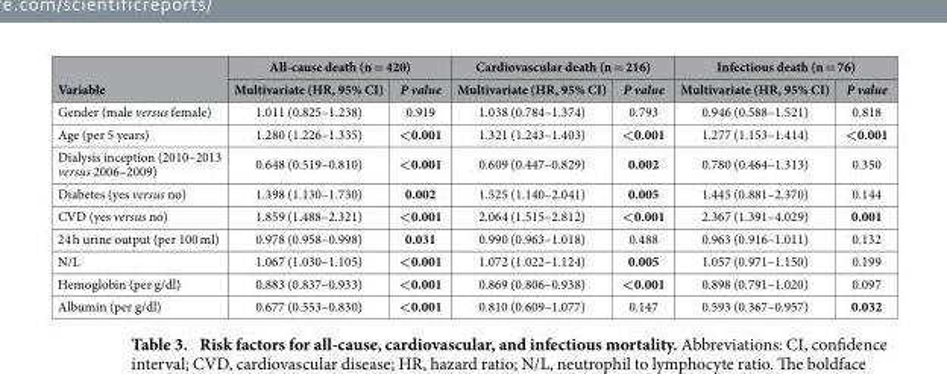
<table><thead><tr><td rowspan="2">Variable</td><td colspan="2">All-cause death (n = 420)</td><td colspan="2">Cardiovascular death (n = 216)</td><td colspan="2">Infectious death (n = 76)</td></tr><tr><td>Multivariate (HR, 95% CI)</td><td>P value</td><td>Multivariate (HR, 95% CI)</td><td>P value</td><td>Multivariate (HR, 95% CI)</td><td>P value</td></tr></thead><tbody><tr><td>Gender (male versus female)</td><td>1.011 (0.825–1.238)</td><td>0.919</td><td>1.038 (0.784–1.374)</td><td>0.793</td><td>0.946 (0.588–1.521)</td><td>0.818</td></tr><tr><td>Age (per 5 years)</td><td>1.280 (1.226–1.335)</td><td>&lt;0.001</td><td>1.321 (1.243–1.403)</td><td>&lt;0.001</td><td>1.277 (1.153–1.414)</td><td>&lt;0.001</td></tr><tr><td>Dialysis inception (2010–2013 versus 2006–2009)</td><td>0.648 (0.519–0.810)</td><td>&lt;0.001</td><td>0.609 (0.447–0.829)</td><td>0.002</td><td>0.780 (0.464–1.313)</td><td>0.350</td></tr><tr><td>Diabetes (yes versus no)</td><td>1.398 (1.130–1.730)</td><td>0.002</td><td>1.525 (1.140–2.041)</td><td>0.005</td><td>1.445 (0.881–2.370)</td><td>0.144</td></tr><tr><td>CVD (yes versus no)</td><td>1.859 (1.488–2.321)</td><td>&lt;0.001</td><td>2.064 (1.515–2.812)</td><td>&lt;0.001</td><td>2.367 (1.391–4.029)</td><td>0.001</td></tr><tr><td>24 h urine output (per 100 ml)</td><td>0.978 (0.958–0.998)</td><td>0.031</td><td>0.990 (0.963–1.018)</td><td>0.488</td><td>0.963 (0.916–1.011)</td><td>0.132</td></tr><tr><td>N/L</td><td>1.067 (1.030–1.105)</td><td>&lt;0.001</td><td>1.072 (1.022–1.124)</td><td>0.005</td><td>1.057 (0.971–1.150)</td><td>0.199</td></tr><tr><td>Hemoglobin (per g/dl)</td><td>0.883 (0.837–0.933)</td><td>&lt;0.001</td><td>0.869 (0.806–0.938)</td><td>&lt;0.001</td><td>0.898 (0.791–1.020)</td><td>0.097</td></tr><tr><td>Albumin (per g/dl)</td><td>0.677 (0.553–0.830)</td><td>&lt;0.001</td><td>0.810 (0.609–1.077)</td><td>0.147</td><td>0.593 (0.367–0.957)</td><td>0.032</td></tr></tbody></table>